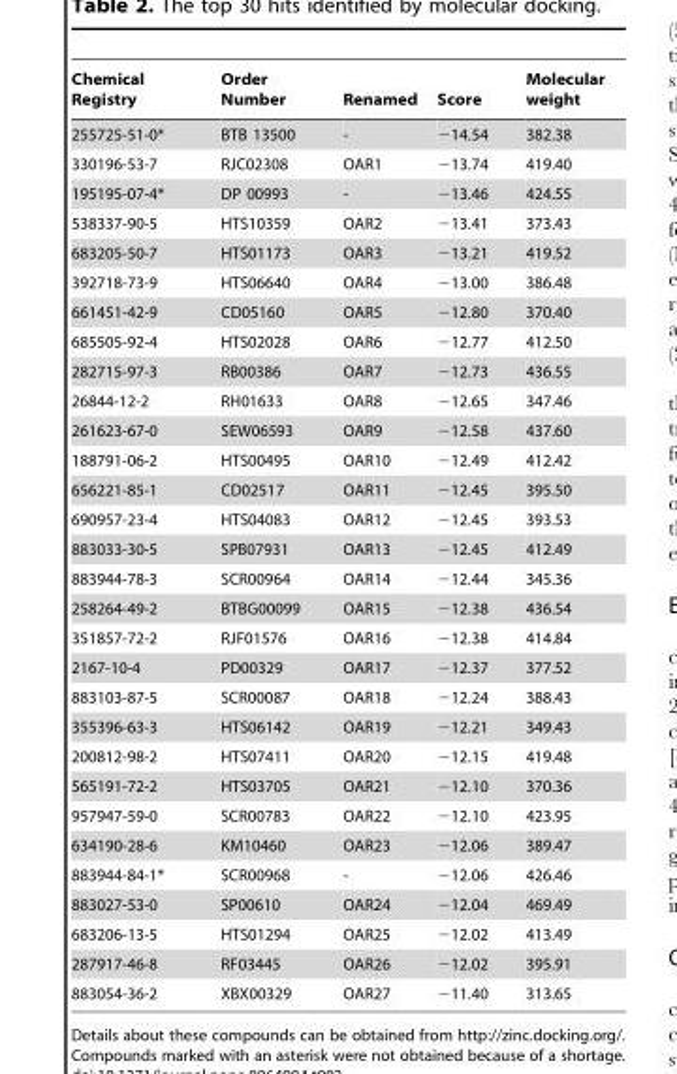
<table><thead><tr><td>Chemical Registry</td><td>Order Number</td><td>Renamed</td><td>Score</td><td>Molecular weight</td></tr></thead><tbody><tr><td>255725-51-0*</td><td>BTB 13500</td><td>-</td><td>−14.54</td><td>382.38</td></tr><tr><td>330196-53-7</td><td>RJC02308</td><td>OAR1</td><td>−13.74</td><td>419.40</td></tr><tr><td>195195-07-4*</td><td>DP 00993</td><td>-</td><td>−13.46</td><td>424.55</td></tr><tr><td>538337-90-5</td><td>HTS10359</td><td>OAR2</td><td>−13.41</td><td>373.43</td></tr><tr><td>683205-50-7</td><td>HTS01173</td><td>OAR3</td><td>−13.21</td><td>419.52</td></tr><tr><td>392718-73-9</td><td>HTS06640</td><td>OAR4</td><td>−13.00</td><td>386.48</td></tr><tr><td>661451-42-9</td><td>CD05160</td><td>OAR5</td><td>−12.80</td><td>370.40</td></tr><tr><td>685505-92-4</td><td>HTS02028</td><td>OAR6</td><td>−12.77</td><td>412.50</td></tr><tr><td>282715-97-3</td><td>RB00386</td><td>OAR7</td><td>−12.73</td><td>436.55</td></tr><tr><td>26844-12-2</td><td>RH01633</td><td>OAR8</td><td>−12.65</td><td>347.46</td></tr><tr><td>261623-67-0</td><td>SEW06593</td><td>OAR9</td><td>−12.58</td><td>437.60</td></tr><tr><td>188791-06-2</td><td>HTS00495</td><td>OAR10</td><td>−12.49</td><td>412.42</td></tr><tr><td>656221-85-1</td><td>CD02517</td><td>OAR11</td><td>−12.45</td><td>395.50</td></tr><tr><td>690957-23-4</td><td>HTS04083</td><td>OAR12</td><td>−12.45</td><td>393.53</td></tr><tr><td>883033-30-5</td><td>SPB07931</td><td>OAR13</td><td>−12.45</td><td>412.49</td></tr><tr><td>883944-78-3</td><td>SCR00964</td><td>OAR14</td><td>−12.44</td><td>345.36</td></tr><tr><td>258264-49-2</td><td>BTBG00099</td><td>OAR15</td><td>−12.38</td><td>436.54</td></tr><tr><td>351857-72-2</td><td>RJF01576</td><td>OAR16</td><td>−12.38</td><td>414.84</td></tr><tr><td>2167-10-4</td><td>PD00329</td><td>OAR17</td><td>−12.37</td><td>377.52</td></tr><tr><td>883103-87-5</td><td>SCR00087</td><td>OAR18</td><td>−12.24</td><td>388.43</td></tr><tr><td>355396-63-3</td><td>HTS06142</td><td>OAR19</td><td>−12.21</td><td>349.43</td></tr><tr><td>200812-98-2</td><td>HTS07411</td><td>OAR20</td><td>−12.15</td><td>419.48</td></tr><tr><td>565191-72-2</td><td>HTS03705</td><td>OAR21</td><td>−12.10</td><td>370.36</td></tr><tr><td>957947-59-0</td><td>SCR00783</td><td>OAR22</td><td>−12.10</td><td>423.95</td></tr><tr><td>634190-28-6</td><td>KM10460</td><td>OAR23</td><td>−12.06</td><td>389.47</td></tr><tr><td>883944-84-1*</td><td>SCR00968</td><td>-</td><td>−12.06</td><td>426.46</td></tr><tr><td>883027-53-0</td><td>SP00610</td><td>OAR24</td><td>−12.04</td><td>469.49</td></tr><tr><td>683206-13-5</td><td>HTS01294</td><td>OAR25</td><td>−12.02</td><td>413.49</td></tr><tr><td>287917-46-8</td><td>RF03445</td><td>OAR26</td><td>−12.02</td><td>395.91</td></tr><tr><td>883054-36-2</td><td>XBX00329</td><td>OAR27</td><td>−11.40</td><td>313.65</td></tr></tbody></table>